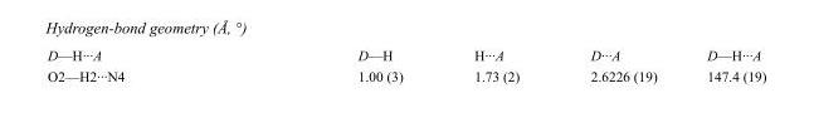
<table><tbody><tr><td>D—H···A</td><td>D—H</td><td>H···A</td><td>D···A</td><td>D—H···A</td></tr><tr><td>O2—H2···N4</td><td>1.00 (3)</td><td>1.73 (2)</td><td>2.6226 (19)</td><td>147.4 (19)</td></tr></tbody></table>